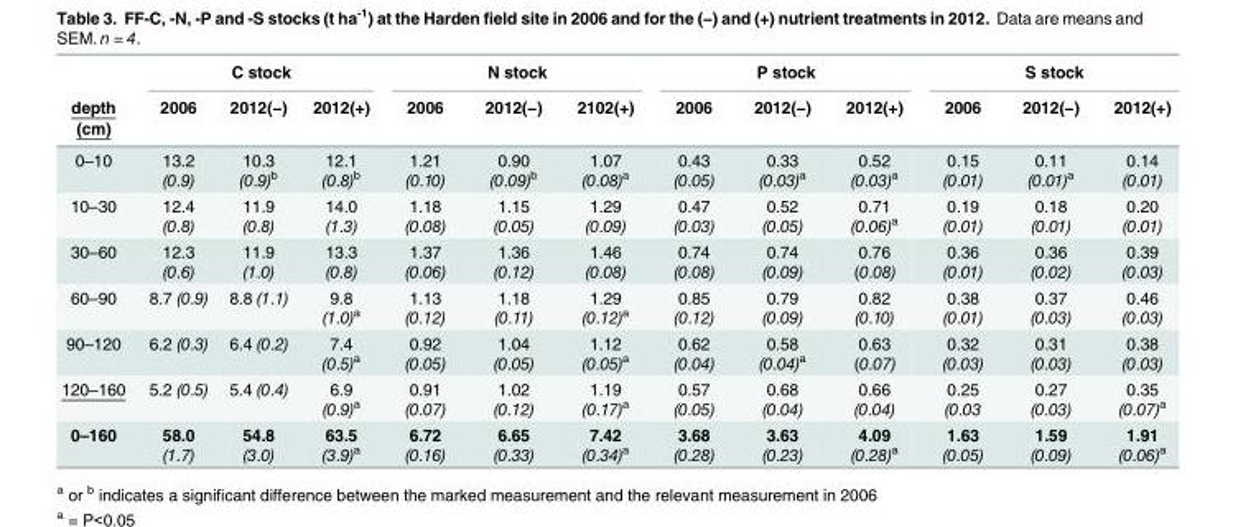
<table><thead><tr><td rowspan="2">depth (cm)</td><td colspan="3">C stock</td><td colspan="3">N stock</td><td colspan="3">P stock</td><td colspan="3">S stock</td></tr><tr><td>2006</td><td>2012(−)</td><td>2012(+)</td><td>2006</td><td>2012(−)</td><td>2102(+)</td><td>2006</td><td>2012(−)</td><td>2012(+)</td><td>2006</td><td>2012(−)</td><td>2012(+)</td></tr></thead><tbody><tr><td>0–10</td><td>13.2 (0.9)</td><td>10.3 (0.9)<sup>b</sup></td><td>12.1 (0.8)<sup>b</sup></td><td>1.21 (0.10)</td><td>0.90 (0.09)<sup>b</sup></td><td>1.07 (0.08)<sup>a</sup></td><td>0.43 (0.05)</td><td>0.33 (0.03)<sup>a</sup></td><td>0.52 (0.03)<sup>a</sup></td><td>0.15 (0.01)</td><td>0.11 (0.01)<sup>a</sup></td><td>0.14 (0.01)</td></tr><tr><td>10–30</td><td>12.4 (0.8)</td><td>11.9 (0.8)</td><td>14.0 (1.3)</td><td>1.18 (0.08)</td><td>1.15 (0.05)</td><td>1.29 (0.09)</td><td>0.47 (0.03)</td><td>0.52 (0.05)</td><td>0.71 (0.06)<sup>a</sup></td><td>0.19 (0.01)</td><td>0.18 (0.01)</td><td>0.20 (0.01)</td></tr><tr><td>30–60</td><td>12.3 (0.6)</td><td>11.9 (1.0)</td><td>13.3 (0.8)</td><td>1.37 (0.06)</td><td>1.36 (0.12)</td><td>1.46 (0.08)</td><td>0.74 (0.08)</td><td>0.74 (0.09)</td><td>0.76 (0.08)</td><td>0.36 (0.01)</td><td>0.36 (0.02)</td><td>0.39 (0.03)</td></tr><tr><td>60–90</td><td>8.7 (0.9)</td><td>8.8 (1.1)</td><td>9.8 (1.0)<sup>a</sup></td><td>1.13 (0.12)</td><td>1.18 (0.11)</td><td>1.29 (0.12)<sup>a</sup></td><td>0.85 (0.12)</td><td>0.79 (0.09)</td><td>0.82 (0.10)</td><td>0.38 (0.01)</td><td>0.37 (0.03)</td><td>0.46 (0.03)</td></tr><tr><td>90–120</td><td>6.2 (0.3)</td><td>6.4 (0.2)</td><td>7.4 (0.5)<sup>a</sup></td><td>0.92 (0.05)</td><td>1.04 (0.05)</td><td>1.12 (0.05)<sup>a</sup></td><td>0.62 (0.04)</td><td>0.58 (0.04)<sup>a</sup></td><td>0.63 (0.07)</td><td>0.32 (0.03)</td><td>0.31 (0.03)</td><td>0.38 (0.03)</td></tr><tr><td>120–160</td><td>5.2 (0.5)</td><td>5.4 (0.4)</td><td>6.9 (0.9)<sup>a</sup></td><td>0.91 (0.07)</td><td>1.02 (0.12)</td><td>1.19 (0.17)<sup>a</sup></td><td>0.57 (0.05)</td><td>0.68 (0.04)</td><td>0.66 (0.04)</td><td>0.25 (0.03</td><td>0.27 (0.03)</td><td>0.35 (0.07)<sup>a</sup></td></tr><tr><td>0–160</td><td>58.0 (1.7)</td><td>54.8 (3.0)</td><td>63.5 (3.9)<sup>a</sup></td><td>6.72 (0.16)</td><td>6.65 (0.33)</td><td>7.42 (0.34)<sup>a</sup></td><td>3.68 (0.28)</td><td>3.63 (0.23)</td><td>4.09 (0.28)<sup>a</sup></td><td>1.63 (0.05)</td><td>1.59 (0.09)</td><td>1.91 (0.06)<sup>a</sup></td></tr></tbody></table>